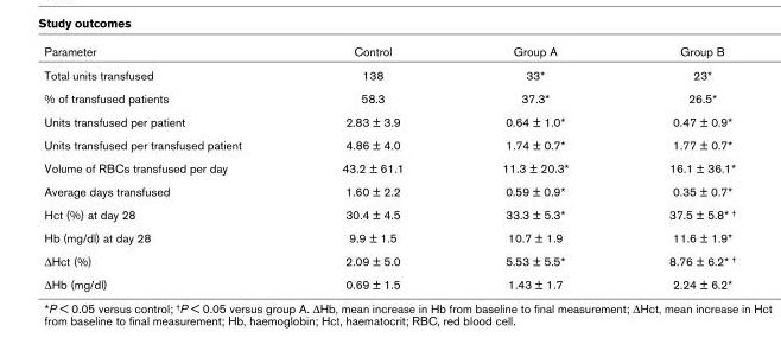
<table><thead><tr><td>Parameter</td><td>Control</td><td>Group A</td><td>Group B</td></tr></thead><tbody><tr><td>Total units transfused</td><td>138</td><td>33*</td><td>23*</td></tr><tr><td>% of transfused patients</td><td>58.3</td><td>37.3*</td><td>26.5*</td></tr><tr><td>Units transfused per patient</td><td>2.83 ± 3.9</td><td>0.64 ± 1.0*</td><td>0.47 ± 0.9*</td></tr><tr><td>Units transfused per transfused patient</td><td>4.86 ± 4.0</td><td>1.74 ± 0.7*</td><td>1.77 ± 0.7*</td></tr><tr><td>Volume of RBCs transfused per day</td><td>43.2 ± 61.1</td><td>11.3 ± 20.3*</td><td>16.1 ± 36.1*</td></tr><tr><td>Average days transfused</td><td>1.60 ± 2.2</td><td>0.59 ± 0.9*</td><td>0.35 ± 0.7*</td></tr><tr><td>Hct (%) at day 28</td><td>30.4 ± 4.5</td><td>33.3 ± 5.3*</td><td>37.5 ± 5.8* †</td></tr><tr><td>Hb (mg/dl) at day 28</td><td>9.9 ± 1.5</td><td>10.7 ± 1.9</td><td>11.6 ± 1.9*</td></tr><tr><td>∆Hct (%)</td><td>2.09 ± 5.0</td><td>5.53 ± 5.5*</td><td>8.76 ± 6.2* †</td></tr><tr><td>∆Hb (mg/dl)</td><td>0.69 ± 1.5</td><td>1.43 ± 1.7</td><td>2.24 ± 6.2*</td></tr></tbody></table>